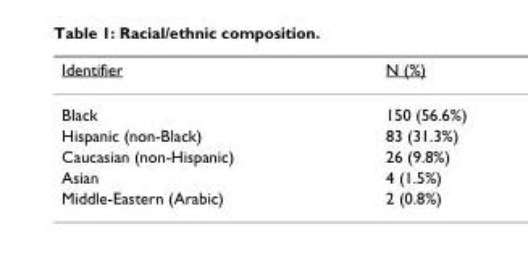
<table><thead><tr><td>Identifier</td><td>N (%)</td></tr></thead><tbody><tr><td>Black</td><td>150 (56.6%)</td></tr><tr><td>Hispanic (non-Black)</td><td>83 (31.3%)</td></tr><tr><td>Caucasian (non-Hispanic)</td><td>26 (9.8%)</td></tr><tr><td>Asian</td><td>4 (1.5%)</td></tr><tr><td>Middle-Eastern (Arabic)</td><td>2 (0.8%)</td></tr></tbody></table>